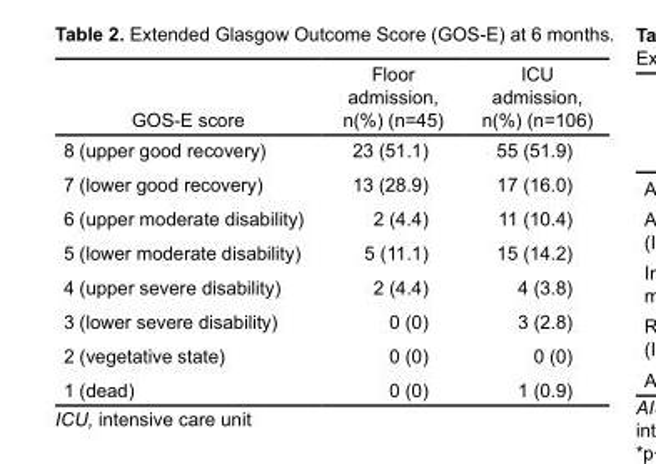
<table><thead><tr><td>GOS-E score</td><td>Floor admission, n(%) (n=45)</td><td>ICU admission, n(%) (n=106)</td></tr></thead><tbody><tr><td>8 (upper good recovery)</td><td>23 (51.1)</td><td>55 (51.9)</td></tr><tr><td>7 (lower good recovery)</td><td>13 (28.9)</td><td>17 (16.0)</td></tr><tr><td>6 (upper moderate disability)</td><td>2 (4.4)</td><td>11 (10.4)</td></tr><tr><td>5 (lower moderate disability)</td><td>5 (11.1)</td><td>15 (14.2)</td></tr><tr><td>4 (upper severe disability)</td><td>2 (4.4)</td><td>4 (3.8)</td></tr><tr><td>3 (lower severe disability)</td><td>0 (0)</td><td>3 (2.8)</td></tr><tr><td>2 (vegetative state)</td><td>0 (0)</td><td>0 (0)</td></tr><tr><td>1 (dead)</td><td>0 (0)</td><td>1 (0.9)</td></tr></tbody></table>